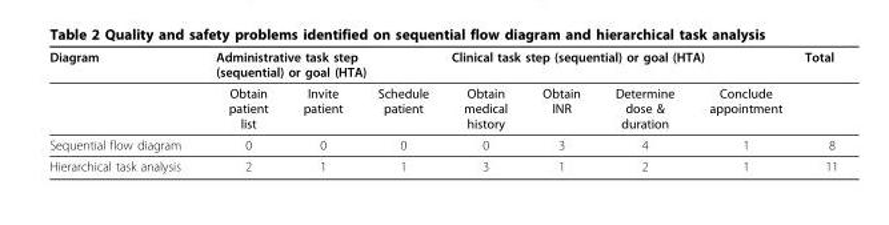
<table><thead><tr><td rowspan="2">Diagram</td><td colspan="3">Administrative task step (sequential) or goal (HTA)</td><td colspan="4">Clinical task step (sequential) or goal (HTA)</td><td rowspan="2">Total</td></tr><tr><td>Obtain patient list</td><td>Invite patient</td><td>Schedule patient</td><td>Obtain medical history</td><td>Obtain INR</td><td>Determine dose &amp; duration</td><td>Conclude appointment</td></tr></thead><tbody><tr><td>Sequential flow diagram</td><td>0</td><td>0</td><td>0</td><td>0</td><td>3</td><td>4</td><td>1</td><td>8</td></tr><tr><td>Hierarchical task analysis</td><td>2</td><td>1</td><td>1</td><td>3</td><td>1</td><td>2</td><td>1</td><td>11</td></tr></tbody></table>